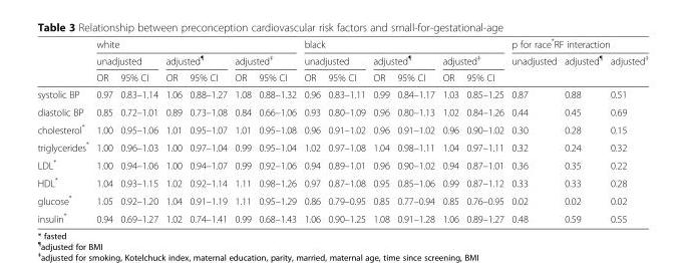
<table><thead><tr><td rowspan="3"></td><td colspan="6">white</td><td colspan="6">black</td><td colspan="3">p for race*RF interaction</td></tr><tr><td colspan="2">unadjusted</td><td colspan="2">adjusted<sup>¶</sup></td><td colspan="2">adjusted<sup>‡</sup></td><td colspan="2">unadjusted</td><td colspan="2">adjusted<sup>¶</sup></td><td colspan="2">adjusted<sup>‡</sup></td><td rowspan="2">unadjusted</td><td rowspan="2">adjusted<sup>¶</sup></td><td rowspan="2">adjusted<sup>‡</sup></td></tr><tr><td>OR</td><td>95% CI</td><td>OR</td><td>95% CI</td><td>OR</td><td>95% CI</td><td>OR</td><td>95% CI</td><td>OR</td><td>95% CI</td><td>OR</td><td>95% CI</td></tr></thead><tbody><tr><td>systolic BP</td><td>0.97</td><td>0.83–1.14</td><td>1.06</td><td>0.88–1.27</td><td>1.08</td><td>0.88–1.32</td><td>0.96</td><td>0.83–1.11</td><td>0.99</td><td>0.84–1.17</td><td>1.03</td><td>0.85–1.25</td><td>0.87</td><td>0.88</td><td>0.51</td></tr><tr><td>diastolic BP</td><td>0.85</td><td>0.72–1.01</td><td>0.89</td><td>0.73–1.08</td><td>0.84</td><td>0.66–1.06</td><td>0.93</td><td>0.80–1.09</td><td>0.96</td><td>0.80–1.13</td><td>1.02</td><td>0.84–1.26</td><td>0.44</td><td>0.45</td><td>0.69</td></tr><tr><td>cholesterol*</td><td>1.00</td><td>0.95–1.06</td><td>1.01</td><td>0.95–1.07</td><td>1.01</td><td>0.95–1.08</td><td>0.96</td><td>0.91–1.02</td><td>0.96</td><td>0.91–1.02</td><td>0.96</td><td>0.90–1.02</td><td>0.30</td><td>0.28</td><td>0.15</td></tr><tr><td>triglycerides*</td><td>1.00</td><td>0.96–1.03</td><td>1.00</td><td>0.97–1.04</td><td>0.99</td><td>0.95–1.04</td><td>1.02</td><td>0.97–1.08</td><td>1.04</td><td>0.98–1.11</td><td>1.04</td><td>0.97–1.11</td><td>0.32</td><td>0.24</td><td>0.32</td></tr><tr><td>LDL*</td><td>1.00</td><td>0.94–1.06</td><td>1.00</td><td>0.94–1.07</td><td>0.99</td><td>0.92–1.06</td><td>0.94</td><td>0.89–1.01</td><td>0.96</td><td>0.90–1.02</td><td>0.94</td><td>0.87–1.01</td><td>0.36</td><td>0.35</td><td>0.22</td></tr><tr><td>HDL*</td><td>1.04</td><td>0.93–1.15</td><td>1.02</td><td>0.92–1.14</td><td>1.11</td><td>0.98–1.26</td><td>0.97</td><td>0.87–1.08</td><td>0.95</td><td>0.85–1.06</td><td>0.99</td><td>0.87–1.12</td><td>0.33</td><td>0.33</td><td>0.28</td></tr><tr><td>glucose*</td><td>1.05</td><td>0.92–1.20</td><td>1.04</td><td>0.91–1.19</td><td>1.11</td><td>0.95–1.29</td><td>0.86</td><td>0.79–0.95</td><td>0.85</td><td>0.77–0.94</td><td>0.85</td><td>0.76–0.95</td><td>0.02</td><td>0.02</td><td>0.02</td></tr><tr><td>insulin*</td><td>0.94</td><td>0.69–1.27</td><td>1.02</td><td>0.74–1.41</td><td>0.99</td><td>0.68–1.43</td><td>1.06</td><td>0.90–1.25</td><td>1.08</td><td>0.91–1.28</td><td>1.06</td><td>0.89–1.27</td><td>0.48</td><td>0.59</td><td>0.55</td></tr></tbody></table>